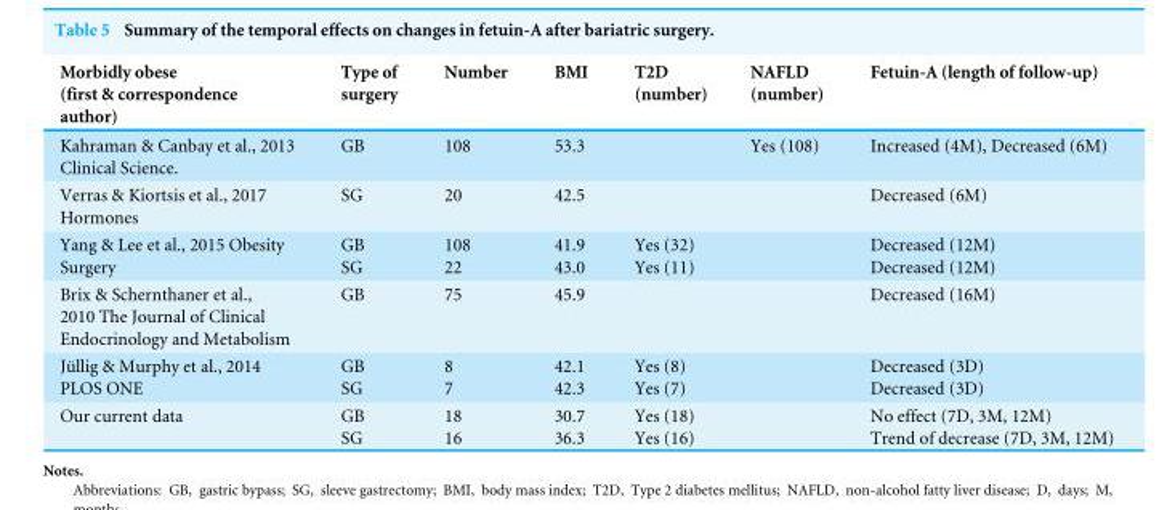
<table><thead><tr><td>Morbidly obese (first &amp; correspondence author)</td><td>Type of surgery</td><td>Number</td><td>BMI</td><td>T2D (number)</td><td>NAFLD (number)</td><td>Fetuin-A (length of follow-up)</td></tr></thead><tbody><tr><td>Kahraman &amp; Canbay et al., 2013 Clinical Science.</td><td>GB</td><td>108</td><td>53.3</td><td></td><td>Yes (108)</td><td>Increased (4M), Decreased (6M)</td></tr><tr><td>Verras &amp; Kiortsis et al., 2017 Hormones</td><td>SG</td><td>20</td><td>42.5</td><td></td><td></td><td>Decreased (6M)</td></tr><tr><td>Yang &amp; Lee et al., 2015 Obesity Surgery</td><td>GB SG</td><td>108 22</td><td>41.9 43.0</td><td>Yes (32) Yes (11)</td><td></td><td>Decreased (12M) Decreased (12M)</td></tr><tr><td>Brix &amp; Schernthaner et al., 2010 The Journal of Clinical Endocrinology and Metabolism</td><td>GB</td><td>75</td><td>45.9</td><td></td><td></td><td>Decreased (16M)</td></tr><tr><td>Jüllig &amp; Murphy et al., 2014 PLOS ONE</td><td>GB SG</td><td>8 7</td><td>42.1 42.3</td><td>Yes (8) Yes (7)</td><td></td><td>Decreased (3D) Decreased (3D)</td></tr><tr><td>Our current data</td><td>GB SG</td><td>18 16</td><td>30.7 36.3</td><td>Yes (18) Yes (16)</td><td></td><td>No effect (7D, 3M, 12M) Trend of decrease (7D, 3M, 12M)</td></tr></tbody></table>